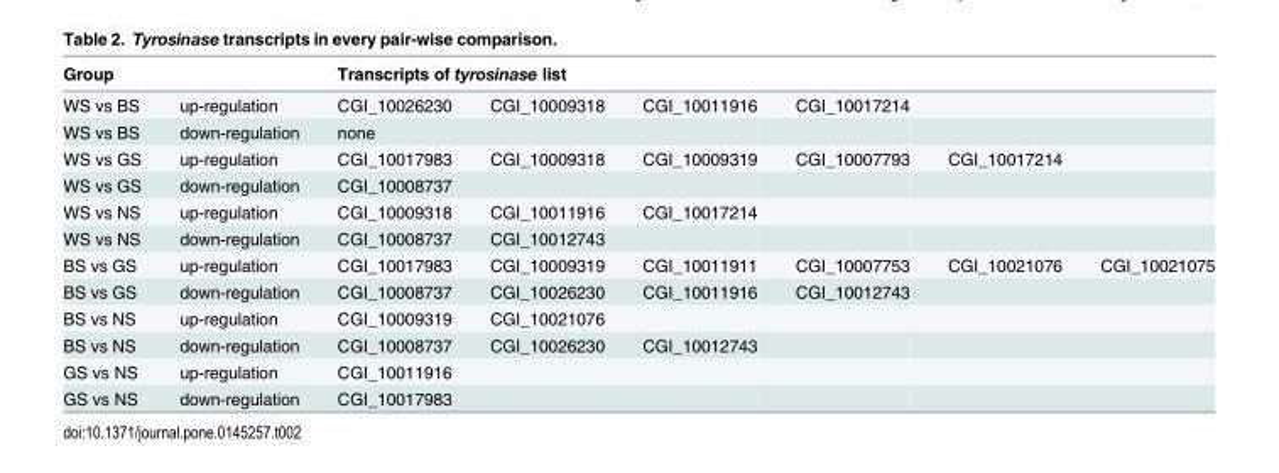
<table><thead><tr><td colspan="2">Group</td><td colspan="6">Transcripts of tyrosinase list</td></tr><tr><td>WS vs BS</td><td>up-regulation</td><td>CGI_10026230</td><td>CGI_10009318</td><td>CGI_10011916</td><td>CGI_10017214</td><td></td><td></td></tr></thead><tbody><tr><td>WS vs BS</td><td>down-regulation</td><td>none</td><td></td><td></td><td></td><td></td><td></td></tr><tr><td>WS vs GS</td><td>up-regulation</td><td>CGI_10017983</td><td>CGI_10009318</td><td>CGI_10009319</td><td>CGI_10007793</td><td>CGI_10017214</td><td></td></tr><tr><td>WS vs GS</td><td>down-regulation</td><td>CGI_10008737</td><td></td><td></td><td></td><td></td><td></td></tr><tr><td>WS vs NS</td><td>up-regulation</td><td>CGI_10009318</td><td>CGI_10011916</td><td>CGI_10017214</td><td></td><td></td><td></td></tr><tr><td>WS vs NS</td><td>down-regulation</td><td>CGI_10008737</td><td>CGI_10012743</td><td></td><td></td><td></td><td></td></tr><tr><td>BS vs GS</td><td>up-regulation</td><td>CGI_10017983</td><td>CGI_10009319</td><td>CGI_10011911</td><td>CGI_10007753</td><td>CGI_10021076</td><td>CGI_10021075</td></tr><tr><td>BS vs GS</td><td>down-regulation</td><td>CGI_10008737</td><td>CGI_10026230</td><td>CGI_10011916</td><td>CGI_10012743</td><td></td><td></td></tr><tr><td>BS vs NS</td><td>up-regulation</td><td>CGI_10009319</td><td>CGI_10021076</td><td></td><td></td><td></td><td></td></tr><tr><td>BS vs NS</td><td>down-regulation</td><td>CGI_10008737</td><td>CGI_10026230</td><td>CGI_10012743</td><td></td><td></td><td></td></tr><tr><td>GS vs NS</td><td>up-regulation</td><td>CGI_10011916</td><td></td><td></td><td></td><td></td><td></td></tr><tr><td>GS vs NS</td><td>down-regulation</td><td>CGI_10017983</td><td></td><td></td><td></td><td></td><td></td></tr></tbody></table>